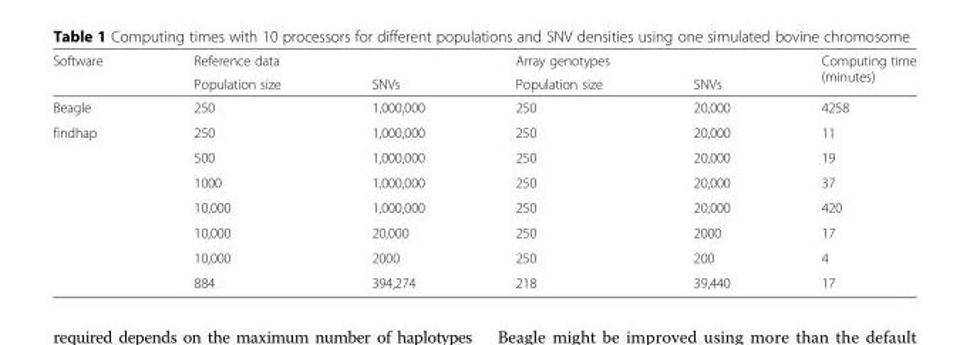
<table><thead><tr><td rowspan="2">Software</td><td colspan="2">Reference data</td><td colspan="2">Array genotypes</td><td rowspan="2">Computing time (minutes)</td></tr><tr><td>Population size</td><td>SNVs</td><td>Population size</td><td>SNVs</td></tr></thead><tbody><tr><td>Beagle</td><td>250</td><td>1,000,000</td><td>250</td><td>20,000</td><td>4258</td></tr><tr><td rowspan="7">findhap</td><td>250</td><td>1,000,000</td><td>250</td><td>20,000</td><td>11</td></tr><tr><td>500</td><td>1,000,000</td><td>250</td><td>20,000</td><td>19</td></tr><tr><td>1000</td><td>1,000,000</td><td>250</td><td>20,000</td><td>37</td></tr><tr><td>10,000</td><td>1,000,000</td><td>250</td><td>20,000</td><td>420</td></tr><tr><td>10,000</td><td>20,000</td><td>250</td><td>2000</td><td>17</td></tr><tr><td>10,000</td><td>2000</td><td>250</td><td>200</td><td>4</td></tr><tr><td>884</td><td>394,274</td><td>218</td><td>39,440</td><td>17</td></tr></tbody></table>